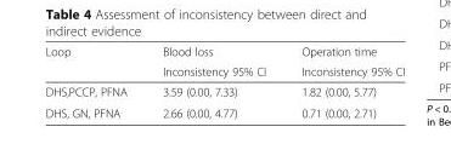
<table><thead><tr><td rowspan="2">Loop</td><td rowspan="2">Blood loss Inconsistency 95% CI</td><td rowspan="2">Operation time Inconsistency 95% CI</td></tr><tr></tr></thead><tbody><tr><td>DHS,PCCP, PFNA</td><td>3.59 (0.00, 7.33)</td><td>1.82 (0.00, 5.77)</td></tr><tr><td>DHS, GN, PFNA</td><td>2.66 (0.00, 4.77)</td><td>0.71 (0.00, 2.71)</td></tr></tbody></table>